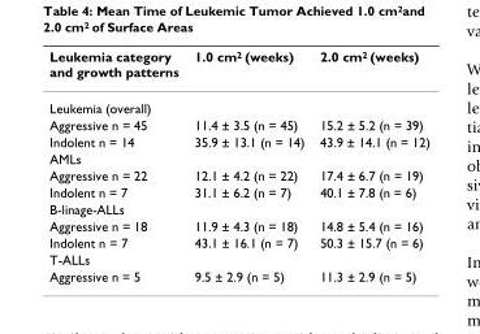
<table><thead><tr><td>Leukemia category and growth patterns</td><td>1.0 cm<sup>2</sup> (weeks)</td><td>2.0 cm<sup>2</sup> (weeks)</td></tr></thead><tbody><tr><td colspan="3">Leukemia (overall)</td></tr><tr><td>Aggressive n = 45</td><td>11.4 ± 3.5 (n = 45)</td><td>15.2 ± 5.2 (n = 39)</td></tr><tr><td>Indolent n = 14</td><td>35.9 ± 13.1 (n = 14)</td><td>43.9 ± 14.1 (n = 12)</td></tr><tr><td colspan="3">AMLs</td></tr><tr><td>Aggressive n = 22</td><td>12.1 ± 4.2 (n = 22)</td><td>17.4 ± 6.7 (n = 19)</td></tr><tr><td>Indolent n = 7</td><td>31.1 ± 6.2 (n = 7)</td><td>40.1 ± 7.8 (n = 6)</td></tr><tr><td colspan="3">B-linage-ALLs</td></tr><tr><td>Aggressive n = 18</td><td>11.9 ± 4.3 (n = 18)</td><td>14.8 ± 5.4 (n = 16)</td></tr><tr><td>Indolent n = 7</td><td>43.1 ± 16.1 (n = 7)</td><td>50.3 ± 15.7 (n = 6)</td></tr><tr><td colspan="3">T-ALLs</td></tr><tr><td>Aggressive n = 5</td><td>9.5 ± 2.9 (n = 5)</td><td>11.3 ± 2.9 (n = 5)</td></tr></tbody></table>